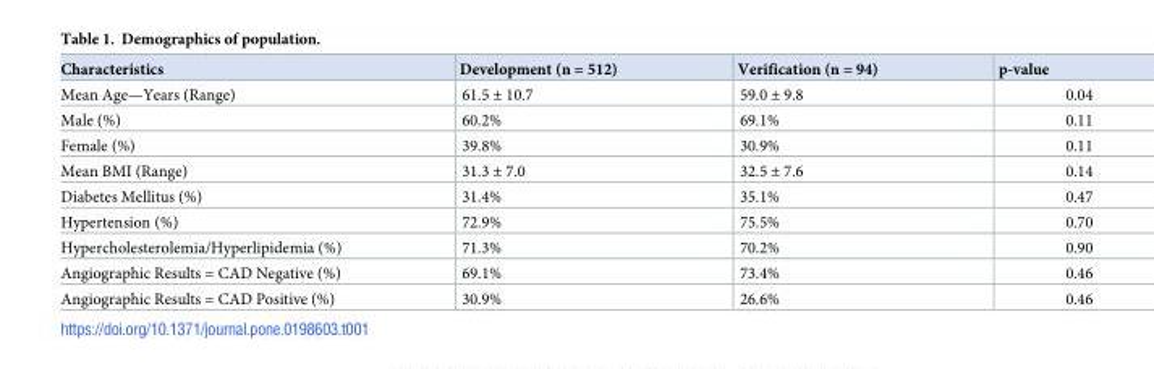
<table><thead><tr><td>Characteristics</td><td>Development (n = 512)</td><td>Verification (n = 94)</td><td>p-value</td></tr></thead><tbody><tr><td>Mean Age—Years (Range)</td><td>61.5 ± 10.7</td><td>59.0 ± 9.8</td><td>0.04</td></tr><tr><td>Male (%)</td><td>60.2%</td><td>69.1%</td><td>0.11</td></tr><tr><td>Female (%)</td><td>39.8%</td><td>30.9%</td><td>0.11</td></tr><tr><td>Mean BMI (Range)</td><td>31.3 ± 7.0</td><td>32.5 ± 7.6</td><td>0.14</td></tr><tr><td>Diabetes Mellitus (%)</td><td>31.4%</td><td>35.1%</td><td>0.47</td></tr><tr><td>Hypertension (%)</td><td>72.9%</td><td>75.5%</td><td>0.70</td></tr><tr><td>Hypercholesterolemia/Hyperlipidemia (%)</td><td>71.3%</td><td>70.2%</td><td>0.90</td></tr><tr><td>Angiographic Results = CAD Negative (%)</td><td>69.1%</td><td>73.4%</td><td>0.46</td></tr><tr><td>Angiographic Results = CAD Positive (%)</td><td>30.9%</td><td>26.6%</td><td>0.46</td></tr></tbody></table>